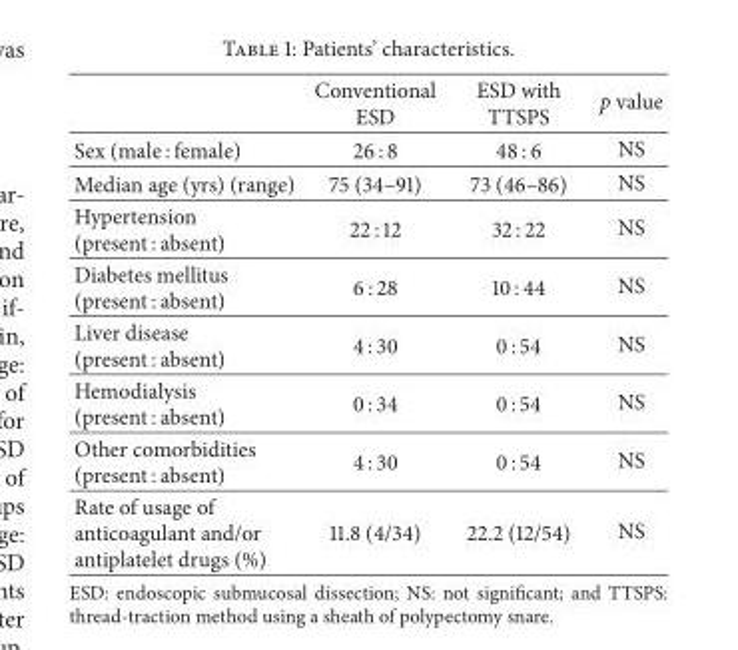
<table><thead><tr><td></td><td>Conventional ESD</td><td>ESD with TTSPS</td><td>p value</td></tr></thead><tbody><tr><td>Sex (male : female)</td><td>26 : 8</td><td>48 : 6</td><td>NS</td></tr><tr><td>Median age (yrs) (range)</td><td>75 (34–91)</td><td>73 (46–86)</td><td>NS</td></tr><tr><td>Hypertension (present : absent)</td><td>22 : 12</td><td>32 : 22</td><td>NS</td></tr><tr><td>Diabetes mellitus (present : absent)</td><td>6 : 28</td><td>10 : 44</td><td>NS</td></tr><tr><td>Liver disease (present : absent)</td><td>4 : 30</td><td>0 : 54</td><td>NS</td></tr><tr><td>Hemodialysis (present : absent)</td><td>0 : 34</td><td>0 : 54</td><td>NS</td></tr><tr><td>Other comorbidities (present : absent)</td><td>4 : 30</td><td>0 : 54</td><td>NS</td></tr><tr><td>Rate of usage of anticoagulant and/or antiplatelet drugs (%)</td><td>11.8 (4/34)</td><td>22.2 (12/54)</td><td>NS</td></tr></tbody></table>